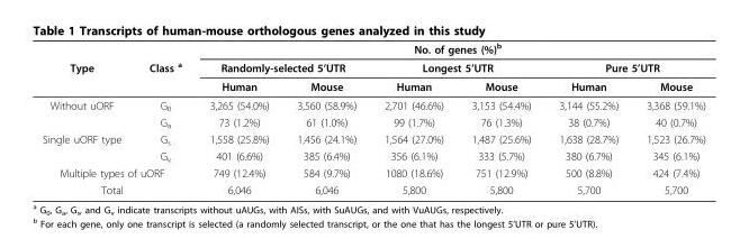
<table><thead><tr><td rowspan="3">Type</td><td rowspan="3">Class <sup>a</sup></td><td colspan="6">No. of genes (%)<sup>b</sup></td></tr><tr><td colspan="2">Randomly-selected 5’UTR</td><td colspan="2">Longest 5’UTR</td><td colspan="2">Pure 5’UTR</td></tr><tr><td>Human</td><td>Mouse</td><td>Human</td><td>Mouse</td><td>Human</td><td>Mouse</td></tr></thead><tbody><tr><td rowspan="2">Without uORF</td><td>G<sub>0</sub></td><td>3,265 (54.0%)</td><td>3,560 (58.9%)</td><td>2,701 (46.6%)</td><td>3,153 (54.4%)</td><td>3,144 (55.2%)</td><td>3,368 (59.1%)</td></tr><tr><td>G<sub>a</sub></td><td>73 (1.2%)</td><td>61 (1.0%)</td><td>99 (1.7%)</td><td>76 (1.3%)</td><td>38 (0.7%)</td><td>40 (0.7%)</td></tr><tr><td rowspan="2">Single uORF type</td><td>G<sub>s</sub></td><td>1,558 (25.8%)</td><td>1,456 (24.1%)</td><td>1,564 (27.0%)</td><td>1,487 (25.6%)</td><td>1,638 (28.7%)</td><td>1,523 (26.7%)</td></tr><tr><td>G<sub>v</sub></td><td>401 (6.6%)</td><td>385 (6.4%)</td><td>356 (6.1%)</td><td>333 (5.7%)</td><td>380 (6.7%)</td><td>345 (6.1%)</td></tr><tr><td colspan="2">Multiple types of uORF</td><td>749 (12.4%)</td><td>584 (9.7%)</td><td>1080 (18.6%)</td><td>751 (12.9%)</td><td>500 (8.8%)</td><td>424 (7.4%)</td></tr><tr><td colspan="2">Total</td><td>6,046</td><td>6,046</td><td>5,800</td><td>5,800</td><td>5,700</td><td>5,700</td></tr></tbody></table>